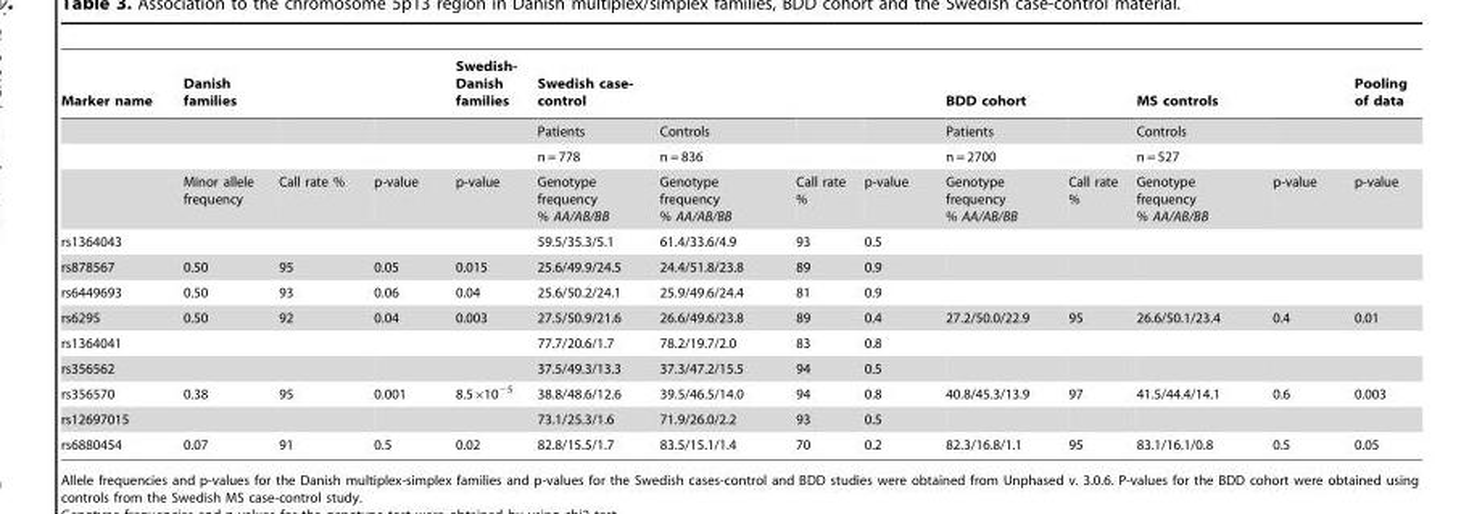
<table><thead><tr><td>Marker name</td><td>Danish families</td><td></td><td></td><td>Swedish- Danish families</td><td>Swedish case- control</td><td></td><td></td><td></td><td>BDD cohort</td><td></td><td>MS controls</td><td></td><td>Pooling of data</td></tr></thead><tbody><tr><td></td><td></td><td></td><td></td><td></td><td>Patients</td><td>Controls</td><td></td><td></td><td>Patients</td><td></td><td>Controls</td><td></td><td></td></tr><tr><td></td><td></td><td></td><td></td><td></td><td>n = 778</td><td>n = 836</td><td></td><td></td><td>n = 2700</td><td></td><td>n = 527</td><td></td><td></td></tr><tr><td></td><td>Minor allele frequency</td><td>Call rate %</td><td>p-value</td><td>p-value</td><td>Genotype frequency % AA/AB/BB</td><td>Genotype frequency % AA/AB/BB</td><td>Call rate %</td><td>p-value</td><td>Genotype frequency % AA/AB/BB</td><td>Call rate %</td><td>Genotype frequency % AA/AB/BB</td><td>p-value</td><td>p-value</td></tr><tr><td>rs1364043</td><td></td><td></td><td></td><td></td><td>59.5/35.3/5.1</td><td>61.4/33.6/4.9</td><td>93</td><td>0.5</td><td></td><td></td><td></td><td></td><td></td></tr><tr><td>rs878567</td><td>0.50</td><td>95</td><td>0.05</td><td>0.015</td><td>25.6/49.9/24.5</td><td>24.4/51.8/23.8</td><td>89</td><td>0.9</td><td></td><td></td><td></td><td></td><td></td></tr><tr><td>rs6449693</td><td>0.50</td><td>93</td><td>0.06</td><td>0.04</td><td>25.6/50.2/24.1</td><td>25.9/49.6/24.4</td><td>81</td><td>0.9</td><td></td><td></td><td></td><td></td><td></td></tr><tr><td>rs6295</td><td>0.50</td><td>92</td><td>0.04</td><td>0.003</td><td>27.5/50.9/21.6</td><td>26.6/49.6/23.8</td><td>89</td><td>0.4</td><td>27.2/50.0/22.9</td><td>95</td><td>26.6/50.1/23.4</td><td>0.4</td><td>0.01</td></tr><tr><td>rs1364041</td><td></td><td></td><td></td><td></td><td>77.7/20.6/1.7</td><td>78.2/19.7/2.0</td><td>83</td><td>0.8</td><td></td><td></td><td></td><td></td><td></td></tr><tr><td>rs356562</td><td></td><td></td><td></td><td></td><td>37.5/49.3/13.3</td><td>37.3/47.2/15.5</td><td>94</td><td>0.5</td><td></td><td></td><td></td><td></td><td></td></tr><tr><td>rs356570</td><td>0.38</td><td>95</td><td>0.001</td><td>8.5×10<sup>−5</sup></td><td>38.8/48.6/12.6</td><td>39.5/46.5/14.0</td><td>94</td><td>0.8</td><td>40.8/45.3/13.9</td><td>97</td><td>41.5/44.4/14.1</td><td>0.6</td><td>0.003</td></tr><tr><td>rs12697015</td><td></td><td></td><td></td><td></td><td>73.1/25.3/1.6</td><td>71.9/26.0/2.2</td><td>93</td><td>0.5</td><td></td><td></td><td></td><td></td><td></td></tr><tr><td>rs6880454</td><td>0.07</td><td>91</td><td>0.5</td><td>0.02</td><td>82.8/15.5/1.7</td><td>83.5/15.1/1.4</td><td>70</td><td>0.2</td><td>82.3/16.8/1.1</td><td>95</td><td>83.1/16.1/0.8</td><td>0.5</td><td>0.05</td></tr></tbody></table>